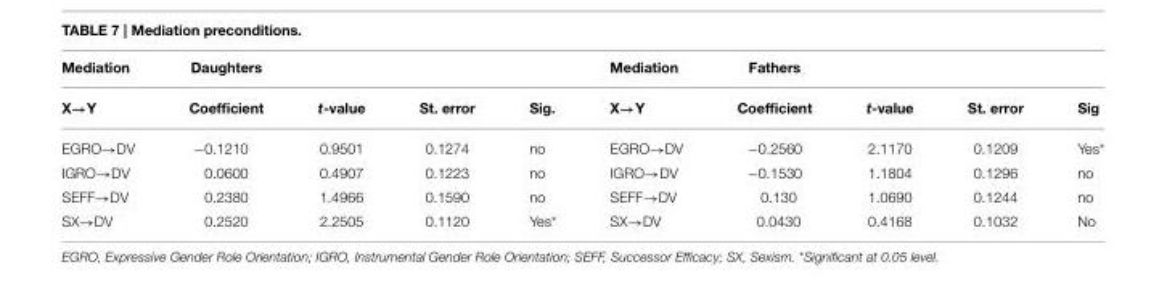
<table><thead><tr><td>Mediation</td><td>Daughters</td><td></td><td></td><td></td><td>Mediation</td><td>Fathers</td><td></td><td></td><td></td></tr></thead><tbody><tr><td>X→Y</td><td>Coefficient</td><td>t-value</td><td>St. error</td><td>Sig.</td><td>X→Y</td><td>Coefficient</td><td>t-value</td><td>St. error</td><td>Sig</td></tr><tr><td>EGRO→DV</td><td>−0.1210</td><td>0.9501</td><td>0.1274</td><td>no</td><td>EGRO→DV</td><td>−0.2560</td><td>2.1170</td><td>0.1209</td><td>Yes*</td></tr><tr><td>IGRO→DV</td><td>0.0600</td><td>0.4907</td><td>0.1223</td><td>no</td><td>IGRO→DV</td><td>−0.1530</td><td>1.1804</td><td>0.1296</td><td>no</td></tr><tr><td>SEFF→DV</td><td>0.2380</td><td>1.4966</td><td>0.1590</td><td>no</td><td>SEFF→DV</td><td>0.130</td><td>1.0690</td><td>0.1244</td><td>no</td></tr><tr><td>SX→DV</td><td>0.2520</td><td>2.2505</td><td>0.1120</td><td>Yes*</td><td>SX→DV</td><td>0.0430</td><td>0.4168</td><td>0.1032</td><td>No</td></tr></tbody></table>